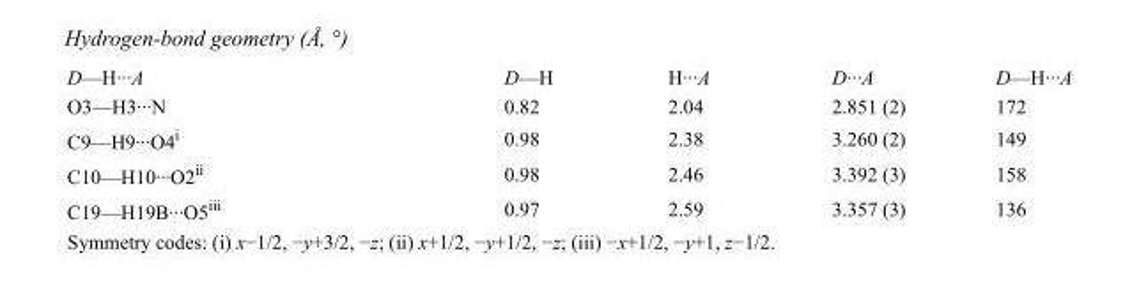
<table><tbody><tr><td>D—H···A</td><td>D—H</td><td>H···A</td><td>D···A</td><td>D—H···A</td></tr><tr><td>O3—H3···N</td><td>0.82</td><td>2.04</td><td>2.851 (2)</td><td>172</td></tr><tr><td>C9—H9···O4<sup>i</sup></td><td>0.98</td><td>2.38</td><td>3.260 (2)</td><td>149</td></tr><tr><td>C10—H10···O2<sup>ii</sup></td><td>0.98</td><td>2.46</td><td>3.392 (3)</td><td>158</td></tr><tr><td>C19—H19B···O5<sup>iii</sup></td><td>0.97</td><td>2.59</td><td>3.357 (3)</td><td>136</td></tr></tbody></table>